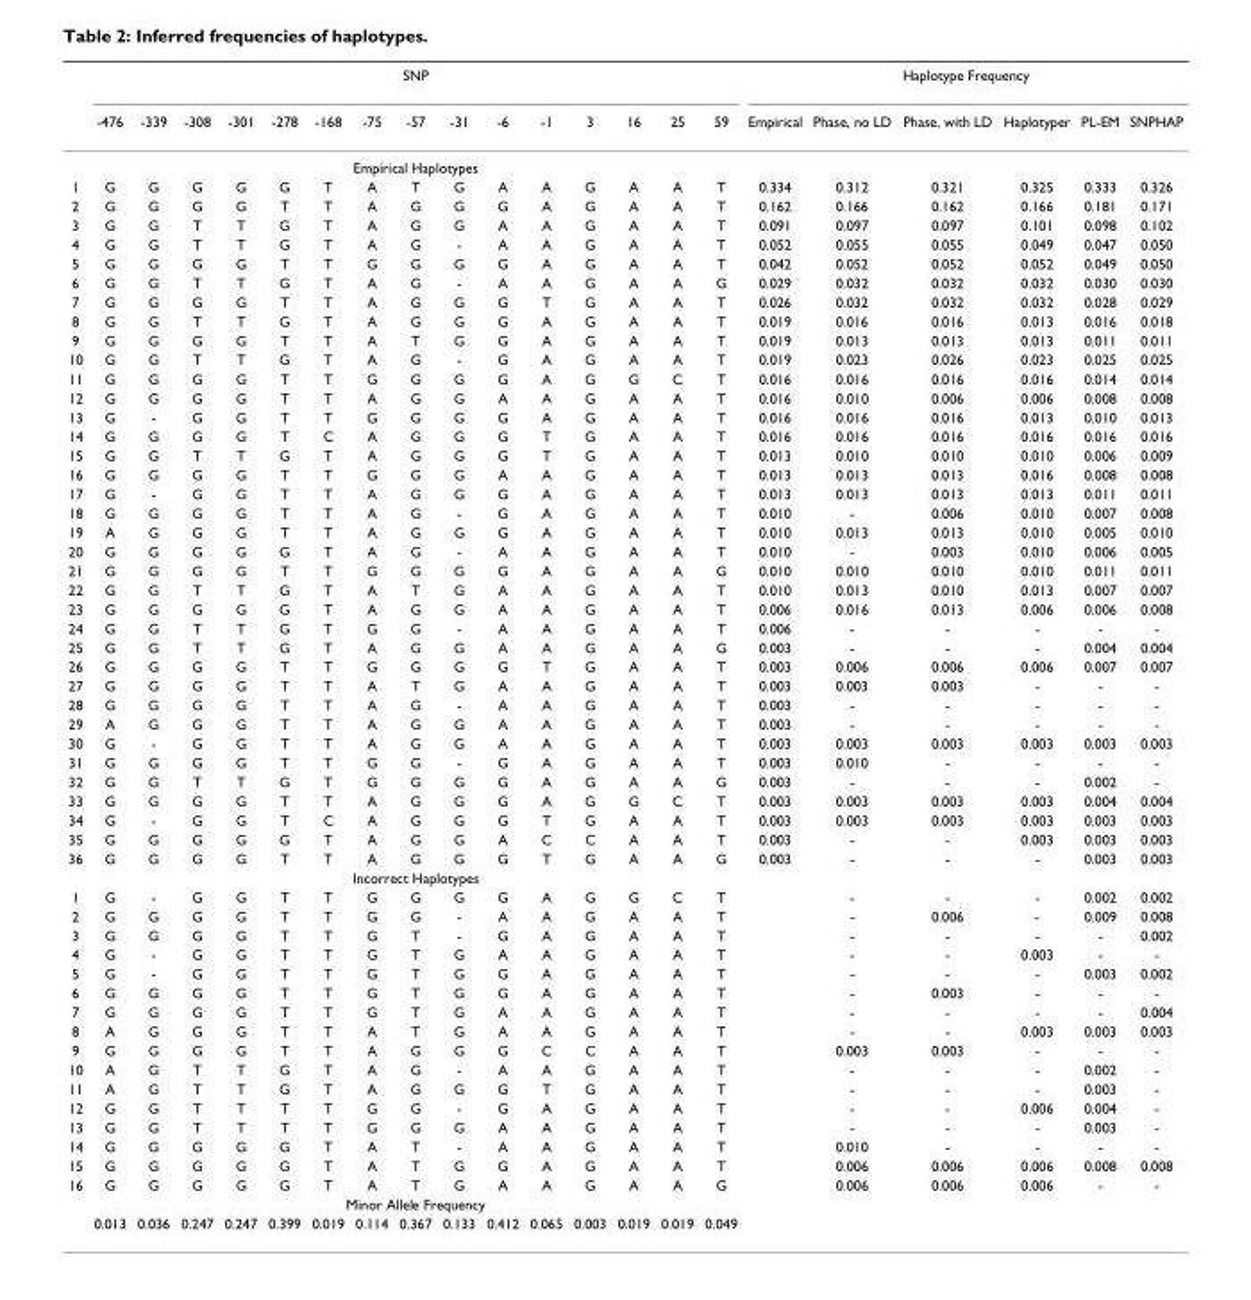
<table><thead><tr><td rowspan="2"></td><td colspan="15">SNP</td><td colspan="6">Haplotype Frequency</td></tr><tr><td>-476</td><td>-339</td><td>-308</td><td>-301</td><td>-278</td><td>-168</td><td>-75</td><td>-57</td><td>-31</td><td>-6</td><td>-1</td><td>3</td><td>16</td><td>25</td><td>59</td><td>Empirical</td><td>Phase, no LD</td><td>Phase, with LD</td><td>Haplotyper</td><td>PL-EM</td><td>SNPHAP</td></tr></thead><tbody><tr><td></td><td colspan="15">Empirical Haplotypes</td><td></td><td></td><td></td><td></td><td></td><td></td></tr><tr><td>1</td><td>G</td><td>G</td><td>G</td><td>G</td><td>G</td><td>T</td><td>A</td><td>T</td><td>G</td><td>A</td><td>A</td><td>G</td><td>A</td><td>A</td><td>T</td><td>0.334</td><td>0.312</td><td>0.321</td><td>0.325</td><td>0.333</td><td>0.326</td></tr><tr><td>2</td><td>G</td><td>G</td><td>G</td><td>G</td><td>T</td><td>T</td><td>A</td><td>G</td><td>G</td><td>G</td><td>A</td><td>G</td><td>A</td><td>A</td><td>T</td><td>0.162</td><td>0.166</td><td>0.162</td><td>0.166</td><td>0.181</td><td>0.171</td></tr><tr><td>3</td><td>G</td><td>G</td><td>T</td><td>T</td><td>G</td><td>T</td><td>A</td><td>G</td><td>G</td><td>A</td><td>A</td><td>G</td><td>A</td><td>A</td><td>T</td><td>0.091</td><td>0.097</td><td>0.097</td><td>0.101</td><td>0.098</td><td>0.102</td></tr><tr><td>4</td><td>G</td><td>G</td><td>T</td><td>T</td><td>G</td><td>T</td><td>A</td><td>G</td><td>-</td><td>A</td><td>A</td><td>G</td><td>A</td><td>A</td><td>T</td><td>0.052</td><td>0.055</td><td>0.055</td><td>0.049</td><td>0.047</td><td>0.050</td></tr><tr><td>5</td><td>G</td><td>G</td><td>G</td><td>G</td><td>T</td><td>T</td><td>G</td><td>G</td><td>G</td><td>G</td><td>A</td><td>G</td><td>A</td><td>A</td><td>T</td><td>0.042</td><td>0.052</td><td>0.052</td><td>0.052</td><td>0.049</td><td>0.050</td></tr><tr><td>6</td><td>G</td><td>G</td><td>T</td><td>T</td><td>G</td><td>T</td><td>A</td><td>G</td><td>-</td><td>A</td><td>A</td><td>G</td><td>A</td><td>A</td><td>G</td><td>0.029</td><td>0.032</td><td>0.032</td><td>0.032</td><td>0.030</td><td>0.030</td></tr><tr><td>7</td><td>G</td><td>G</td><td>G</td><td>G</td><td>T</td><td>T</td><td>A</td><td>G</td><td>G</td><td>G</td><td>T</td><td>G</td><td>A</td><td>A</td><td>T</td><td>0.026</td><td>0.032</td><td>0.032</td><td>0.032</td><td>0.028</td><td>0.029</td></tr><tr><td>8</td><td>G</td><td>G</td><td>T</td><td>T</td><td>G</td><td>T</td><td>A</td><td>G</td><td>G</td><td>G</td><td>A</td><td>G</td><td>A</td><td>A</td><td>T</td><td>0.019</td><td>0.016</td><td>0.016</td><td>0.013</td><td>0.016</td><td>0.018</td></tr><tr><td>9</td><td>G</td><td>G</td><td>G</td><td>G</td><td>T</td><td>T</td><td>A</td><td>T</td><td>G</td><td>G</td><td>A</td><td>G</td><td>A</td><td>A</td><td>T</td><td>0.019</td><td>0.013</td><td>0.013</td><td>0.013</td><td>0.011</td><td>0.011</td></tr><tr><td>10</td><td>G</td><td>G</td><td>T</td><td>T</td><td>G</td><td>T</td><td>A</td><td>G</td><td>-</td><td>G</td><td>A</td><td>G</td><td>A</td><td>A</td><td>T</td><td>0.019</td><td>0.023</td><td>0.026</td><td>0.023</td><td>0.025</td><td>0.025</td></tr><tr><td>11</td><td>G</td><td>G</td><td>G</td><td>G</td><td>T</td><td>T</td><td>G</td><td>G</td><td>G</td><td>G</td><td>A</td><td>G</td><td>G</td><td>C</td><td>T</td><td>0.016</td><td>0.016</td><td>0.016</td><td>0.016</td><td>0.014</td><td>0.014</td></tr><tr><td>12</td><td>G</td><td>G</td><td>G</td><td>G</td><td>T</td><td>T</td><td>A</td><td>G</td><td>G</td><td>A</td><td>A</td><td>G</td><td>A</td><td>A</td><td>T</td><td>0.016</td><td>0.010</td><td>0.006</td><td>0.006</td><td>0.008</td><td>0.008</td></tr><tr><td>13</td><td>G</td><td>-</td><td>G</td><td>G</td><td>T</td><td>T</td><td>G</td><td>G</td><td>G</td><td>G</td><td>A</td><td>G</td><td>A</td><td>A</td><td>T</td><td>0.016</td><td>0.016</td><td>0.016</td><td>0.013</td><td>0.010</td><td>0.013</td></tr><tr><td>14</td><td>G</td><td>G</td><td>G</td><td>G</td><td>T</td><td>C</td><td>A</td><td>G</td><td>G</td><td>G</td><td>T</td><td>G</td><td>A</td><td>A</td><td>T</td><td>0.016</td><td>0.016</td><td>0.016</td><td>0.016</td><td>0.016</td><td>0.016</td></tr><tr><td>15</td><td>G</td><td>G</td><td>T</td><td>T</td><td>G</td><td>T</td><td>A</td><td>G</td><td>G</td><td>G</td><td>T</td><td>G</td><td>A</td><td>A</td><td>T</td><td>0.013</td><td>0.010</td><td>0.010</td><td>0.010</td><td>0.006</td><td>0.009</td></tr><tr><td>16</td><td>G</td><td>G</td><td>G</td><td>G</td><td>T</td><td>T</td><td>G</td><td>G</td><td>G</td><td>A</td><td>A</td><td>G</td><td>A</td><td>A</td><td>T</td><td>0.013</td><td>0.013</td><td>0.013</td><td>0.016</td><td>0.008</td><td>0.008</td></tr><tr><td>17</td><td>G</td><td>-</td><td>G</td><td>G</td><td>T</td><td>T</td><td>A</td><td>G</td><td>G</td><td>G</td><td>A</td><td>G</td><td>A</td><td>A</td><td>T</td><td>0.013</td><td>0.013</td><td>0.013</td><td>0.013</td><td>0.011</td><td>0.011</td></tr><tr><td>18</td><td>G</td><td>G</td><td>G</td><td>G</td><td>T</td><td>T</td><td>A</td><td>G</td><td>-</td><td>G</td><td>A</td><td>G</td><td>A</td><td>A</td><td>T</td><td>0.010</td><td>-</td><td>0.006</td><td>0.010</td><td>0.007</td><td>0.008</td></tr><tr><td>19</td><td>A</td><td>G</td><td>G</td><td>G</td><td>T</td><td>T</td><td>A</td><td>G</td><td>G</td><td>G</td><td>A</td><td>G</td><td>A</td><td>A</td><td>T</td><td>0.010</td><td>0.013</td><td>0.013</td><td>0.010</td><td>0.005</td><td>0.010</td></tr><tr><td>20</td><td>G</td><td>G</td><td>G</td><td>G</td><td>G</td><td>T</td><td>A</td><td>G</td><td>-</td><td>A</td><td>A</td><td>G</td><td>A</td><td>A</td><td>T</td><td>0.010</td><td>-</td><td>0.003</td><td>0.010</td><td>0.006</td><td>0.005</td></tr><tr><td>21</td><td>G</td><td>G</td><td>G</td><td>G</td><td>T</td><td>T</td><td>G</td><td>G</td><td>G</td><td>G</td><td>A</td><td>G</td><td>A</td><td>A</td><td>G</td><td>0.010</td><td>0.010</td><td>0.010</td><td>0.010</td><td>0.011</td><td>0.011</td></tr><tr><td>22</td><td>G</td><td>G</td><td>T</td><td>T</td><td>G</td><td>T</td><td>A</td><td>T</td><td>G</td><td>A</td><td>A</td><td>G</td><td>A</td><td>A</td><td>T</td><td>0.010</td><td>0.013</td><td>0.010</td><td>0.013</td><td>0.007</td><td>0.007</td></tr><tr><td>23</td><td>G</td><td>G</td><td>G</td><td>G</td><td>G</td><td>T</td><td>A</td><td>G</td><td>G</td><td>A</td><td>A</td><td>G</td><td>A</td><td>A</td><td>T</td><td>0.006</td><td>0.016</td><td>0.013</td><td>0.006</td><td>0.006</td><td>0.008</td></tr><tr><td>24</td><td>G</td><td>G</td><td>T</td><td>T</td><td>G</td><td>T</td><td>G</td><td>G</td><td>-</td><td>A</td><td>A</td><td>G</td><td>A</td><td>A</td><td>T</td><td>0.006</td><td>-</td><td>-</td><td>-</td><td>-</td><td>-</td></tr><tr><td>25</td><td>G</td><td>G</td><td>T</td><td>T</td><td>G</td><td>T</td><td>A</td><td>G</td><td>G</td><td>A</td><td>A</td><td>G</td><td>A</td><td>A</td><td>G</td><td>0.003</td><td>-</td><td>-</td><td>-</td><td>0.004</td><td>0.004</td></tr><tr><td>26</td><td>G</td><td>G</td><td>G</td><td>G</td><td>T</td><td>T</td><td>G</td><td>G</td><td>G</td><td>G</td><td>T</td><td>G</td><td>A</td><td>A</td><td>T</td><td>0.003</td><td>0.006</td><td>0.006</td><td>0.006</td><td>0.007</td><td>0.007</td></tr><tr><td>27</td><td>G</td><td>G</td><td>G</td><td>G</td><td>T</td><td>T</td><td>A</td><td>T</td><td>G</td><td>A</td><td>A</td><td>G</td><td>A</td><td>A</td><td>T</td><td>0.003</td><td>0.003</td><td>0.003</td><td>-</td><td>-</td><td>-</td></tr><tr><td>28</td><td>G</td><td>G</td><td>G</td><td>G</td><td>T</td><td>T</td><td>A</td><td>G</td><td>-</td><td>A</td><td>A</td><td>G</td><td>A</td><td>A</td><td>T</td><td>0.003</td><td>-</td><td>-</td><td>-</td><td>-</td><td>-</td></tr><tr><td>29</td><td>A</td><td>G</td><td>G</td><td>G</td><td>T</td><td>T</td><td>A</td><td>G</td><td>G</td><td>A</td><td>A</td><td>G</td><td>A</td><td>A</td><td>T</td><td>0.003</td><td>-</td><td>-</td><td>-</td><td>-</td><td>-</td></tr><tr><td>30</td><td>G</td><td>-</td><td>G</td><td>G</td><td>T</td><td>T</td><td>A</td><td>G</td><td>G</td><td>A</td><td>A</td><td>G</td><td>A</td><td>A</td><td>T</td><td>0.003</td><td>0.003</td><td>0.003</td><td>0.003</td><td>0.003</td><td>0.003</td></tr><tr><td>31</td><td>G</td><td>G</td><td>G</td><td>G</td><td>T</td><td>T</td><td>G</td><td>G</td><td>-</td><td>G</td><td>A</td><td>G</td><td>A</td><td>A</td><td>T</td><td>0.003</td><td>0.010</td><td>-</td><td>-</td><td>-</td><td>-</td></tr><tr><td>32</td><td>G</td><td>G</td><td>T</td><td>T</td><td>G</td><td>T</td><td>G</td><td>G</td><td>G</td><td>G</td><td>A</td><td>G</td><td>A</td><td>A</td><td>G</td><td>0.003</td><td>-</td><td>-</td><td>-</td><td>0.002</td><td>-</td></tr><tr><td>33</td><td>G</td><td>G</td><td>G</td><td>G</td><td>T</td><td>T</td><td>A</td><td>G</td><td>G</td><td>G</td><td>A</td><td>G</td><td>G</td><td>C</td><td>T</td><td>0.003</td><td>0.003</td><td>0.003</td><td>0.003</td><td>0.004</td><td>0.004</td></tr><tr><td>34</td><td>G</td><td>-</td><td>G</td><td>G</td><td>T</td><td>C</td><td>A</td><td>G</td><td>G</td><td>G</td><td>T</td><td>G</td><td>A</td><td>A</td><td>T</td><td>0.003</td><td>0.003</td><td>0.003</td><td>0.003</td><td>0.003</td><td>0.003</td></tr><tr><td>35</td><td>G</td><td>G</td><td>G</td><td>G</td><td>G</td><td>T</td><td>A</td><td>G</td><td>G</td><td>A</td><td>C</td><td>C</td><td>A</td><td>A</td><td>T</td><td>0.003</td><td>-</td><td>-</td><td>0.003</td><td>0.003</td><td>0.003</td></tr><tr><td rowspan="2">36</td><td>G</td><td>G</td><td>G</td><td>G</td><td>T</td><td>T</td><td>A</td><td>G</td><td>G</td><td>G</td><td>T</td><td>G</td><td>A</td><td>A</td><td>G</td><td>0.003</td><td>-</td><td>-</td><td>-</td><td>0.003</td><td>0.003</td></tr><tr><td colspan="15">Incorrect Haplotypes</td><td></td><td></td><td></td><td></td><td></td><td></td></tr><tr><td>1</td><td>G</td><td>-</td><td>G</td><td>G</td><td>T</td><td>T</td><td>G</td><td>G</td><td>G</td><td>G</td><td>A</td><td>G</td><td>G</td><td>C</td><td>T</td><td></td><td>-</td><td>-</td><td>-</td><td>0.002</td><td>0.002</td></tr><tr><td>2</td><td>G</td><td>G</td><td>G</td><td>G</td><td>T</td><td>T</td><td>G</td><td>G</td><td>-</td><td>A</td><td>A</td><td>G</td><td>A</td><td>A</td><td>T</td><td></td><td>-</td><td>0.006</td><td>-</td><td>0.009</td><td>0.008</td></tr><tr><td>3</td><td>G</td><td>G</td><td>G</td><td>G</td><td>T</td><td>T</td><td>G</td><td>T</td><td>-</td><td>G</td><td>A</td><td>G</td><td>A</td><td>A</td><td>T</td><td></td><td>-</td><td>-</td><td>-</td><td>-</td><td>0.002</td></tr><tr><td>4</td><td>G</td><td>-</td><td>G</td><td>G</td><td>T</td><td>T</td><td>G</td><td>T</td><td>G</td><td>A</td><td>A</td><td>G</td><td>A</td><td>A</td><td>T</td><td></td><td>-</td><td>-</td><td>0.003</td><td>-</td><td>-</td></tr><tr><td>5</td><td>G</td><td>-</td><td>G</td><td>G</td><td>T</td><td>T</td><td>G</td><td>T</td><td>G</td><td>G</td><td>A</td><td>G</td><td>A</td><td>A</td><td>T</td><td></td><td>-</td><td>-</td><td>-</td><td>0.003</td><td>0.002</td></tr><tr><td>6</td><td>G</td><td>G</td><td>G</td><td>G</td><td>T</td><td>T</td><td>G</td><td>T</td><td>G</td><td>G</td><td>A</td><td>G</td><td>A</td><td>A</td><td>T</td><td></td><td>-</td><td>0.003</td><td>-</td><td>-</td><td>-</td></tr><tr><td>7</td><td>G</td><td>G</td><td>G</td><td>G</td><td>T</td><td>T</td><td>G</td><td>T</td><td>G</td><td>A</td><td>A</td><td>G</td><td>A</td><td>A</td><td>T</td><td></td><td>-</td><td>-</td><td>-</td><td>-</td><td>0.004</td></tr><tr><td>8</td><td>A</td><td>G</td><td>G</td><td>G</td><td>T</td><td>T</td><td>A</td><td>T</td><td>G</td><td>A</td><td>A</td><td>G</td><td>A</td><td>A</td><td>T</td><td></td><td>-</td><td>-</td><td>0.003</td><td>0.003</td><td>0.003</td></tr><tr><td>9</td><td>G</td><td>G</td><td>G</td><td>G</td><td>T</td><td>T</td><td>A</td><td>G</td><td>G</td><td>G</td><td>C</td><td>C</td><td>A</td><td>A</td><td>T</td><td></td><td>0.003</td><td>0.003</td><td>-</td><td>-</td><td>-</td></tr><tr><td>10</td><td>A</td><td>G</td><td>T</td><td>T</td><td>G</td><td>T</td><td>A</td><td>G</td><td>-</td><td>A</td><td>A</td><td>G</td><td>A</td><td>A</td><td>T</td><td></td><td>-</td><td>-</td><td>-</td><td>0.002</td><td>-</td></tr><tr><td>11</td><td>A</td><td>G</td><td>T</td><td>T</td><td>G</td><td>T</td><td>A</td><td>G</td><td>G</td><td>G</td><td>T</td><td>G</td><td>A</td><td>A</td><td>T</td><td></td><td>-</td><td>-</td><td>-</td><td>0.003</td><td>-</td></tr><tr><td>12</td><td>G</td><td>G</td><td>T</td><td>T</td><td>T</td><td>T</td><td>G</td><td>G</td><td>-</td><td>G</td><td>A</td><td>G</td><td>A</td><td>A</td><td>T</td><td></td><td>-</td><td>-</td><td>0.006</td><td>0.004</td><td>-</td></tr><tr><td>13</td><td>G</td><td>G</td><td>T</td><td>T</td><td>T</td><td>T</td><td>G</td><td>G</td><td>G</td><td>A</td><td>A</td><td>G</td><td>A</td><td>A</td><td>T</td><td></td><td>-</td><td>-</td><td>-</td><td>0.003</td><td>-</td></tr><tr><td>14</td><td>G</td><td>G</td><td>G</td><td>G</td><td>G</td><td>T</td><td>A</td><td>T</td><td>-</td><td>A</td><td>A</td><td>G</td><td>A</td><td>A</td><td>T</td><td></td><td>0.010</td><td>-</td><td>-</td><td>-</td><td>-</td></tr><tr><td>15</td><td>G</td><td>G</td><td>G</td><td>G</td><td>G</td><td>T</td><td>A</td><td>T</td><td>G</td><td>G</td><td>A</td><td>G</td><td>A</td><td>A</td><td>T</td><td></td><td>0.006</td><td>0.006</td><td>0.006</td><td>0.008</td><td>0.008</td></tr><tr><td rowspan="3">16</td><td>G</td><td>G</td><td>G</td><td>G</td><td>G</td><td>T</td><td>A</td><td>T</td><td>G</td><td>A</td><td>A</td><td>G</td><td>A</td><td>A</td><td>G</td><td></td><td>0.006</td><td>0.006</td><td>0.006</td><td>-</td><td>-</td></tr><tr><td colspan="15">Minor Allele Frequency</td><td></td><td></td><td></td><td></td><td></td><td></td></tr><tr><td>0.013</td><td>0.036</td><td>0.247</td><td>0.247</td><td>0.399</td><td>0.019</td><td>0.114</td><td>0.367</td><td>0.133</td><td>0.412</td><td>0.065</td><td>0.003</td><td>0.019</td><td>0.019</td><td>0.049</td><td></td><td></td><td></td><td></td><td></td><td></td></tr></tbody></table>